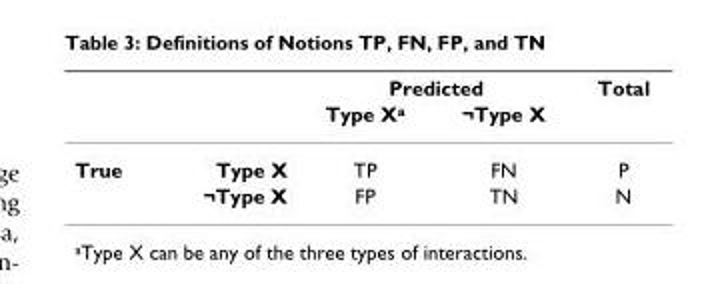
<table><thead><tr><td rowspan="2"></td><td rowspan="2"></td><td colspan="2">Predicted</td><td rowspan="2">Total</td></tr><tr><td>Type Xa</td><td>¬Type X</td></tr></thead><tbody><tr><td rowspan="2">True</td><td>Type X</td><td>TP</td><td>FN</td><td>P</td></tr><tr><td>¬Type X</td><td>FP</td><td>TN</td><td>N</td></tr></tbody></table>